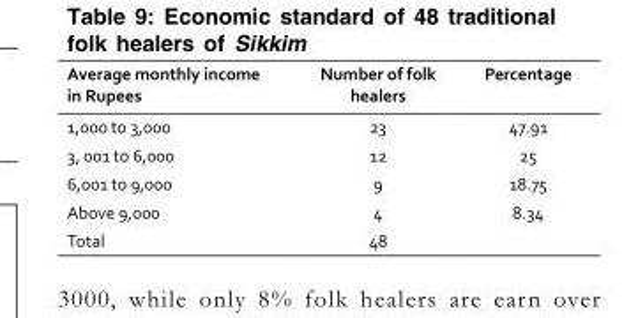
<table><thead><tr><td>Average monthly income in Rupees</td><td>Number of folk healers</td><td>Percentage</td></tr></thead><tbody><tr><td>1,000 to 3,000</td><td>23</td><td>47.91</td></tr><tr><td>3, 001 to 6,000</td><td>12</td><td>25</td></tr><tr><td>6,001 to 9,000</td><td>9</td><td>18.75</td></tr><tr><td>Above 9,000</td><td>4</td><td>8.34</td></tr><tr><td>Total</td><td>48</td><td></td></tr></tbody></table>